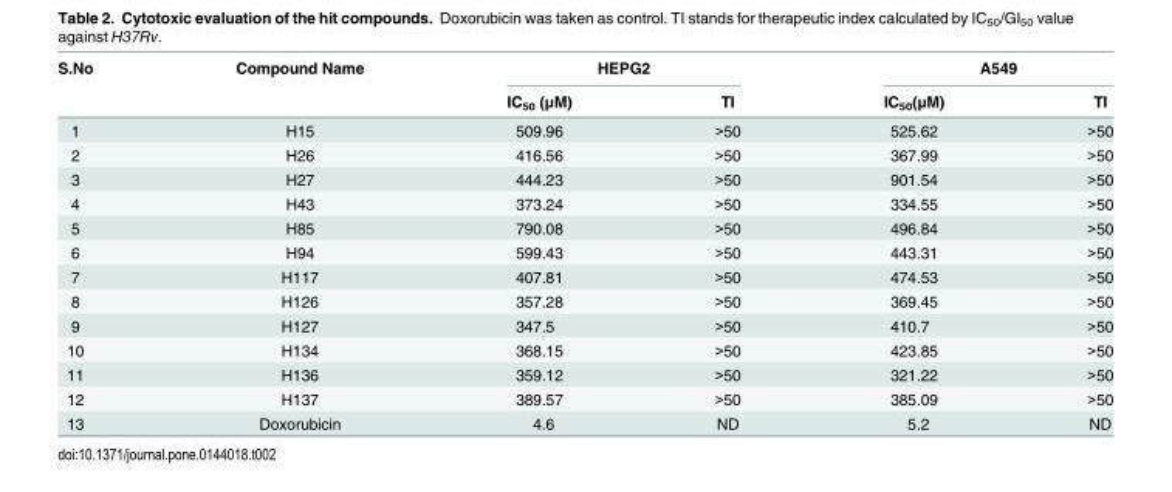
<table><thead><tr><td rowspan="2">S.No</td><td rowspan="2">Compound Name</td><td colspan="2">HEPG2</td><td colspan="2">A549</td></tr><tr><td>IC<sub>50</sub> (μM)</td><td>TI</td><td>IC<sub>50</sub>(μM)</td><td>TI</td></tr></thead><tbody><tr><td>1</td><td>H15</td><td>509.96</td><td>&gt;50</td><td>525.62</td><td>&gt;50</td></tr><tr><td>2</td><td>H26</td><td>416.56</td><td>&gt;50</td><td>367.99</td><td>&gt;50</td></tr><tr><td>3</td><td>H27</td><td>444.23</td><td>&gt;50</td><td>901.54</td><td>&gt;50</td></tr><tr><td>4</td><td>H43</td><td>373.24</td><td>&gt;50</td><td>334.55</td><td>&gt;50</td></tr><tr><td>5</td><td>H85</td><td>790.08</td><td>&gt;50</td><td>496.84</td><td>&gt;50</td></tr><tr><td>6</td><td>H94</td><td>599.43</td><td>&gt;50</td><td>443.31</td><td>&gt;50</td></tr><tr><td>7</td><td>H117</td><td>407.81</td><td>&gt;50</td><td>474.53</td><td>&gt;50</td></tr><tr><td>8</td><td>H126</td><td>357.28</td><td>&gt;50</td><td>369.45</td><td>&gt;50</td></tr><tr><td>9</td><td>H127</td><td>347.5</td><td>&gt;50</td><td>410.7</td><td>&gt;50</td></tr><tr><td>10</td><td>H134</td><td>368.15</td><td>&gt;50</td><td>423.85</td><td>&gt;50</td></tr><tr><td>11</td><td>H136</td><td>359.12</td><td>&gt;50</td><td>321.22</td><td>&gt;50</td></tr><tr><td>12</td><td>H137</td><td>389.57</td><td>&gt;50</td><td>385.09</td><td>&gt;50</td></tr><tr><td>13</td><td>Doxorubicin</td><td>4.6</td><td>ND</td><td>5.2</td><td>ND</td></tr></tbody></table>